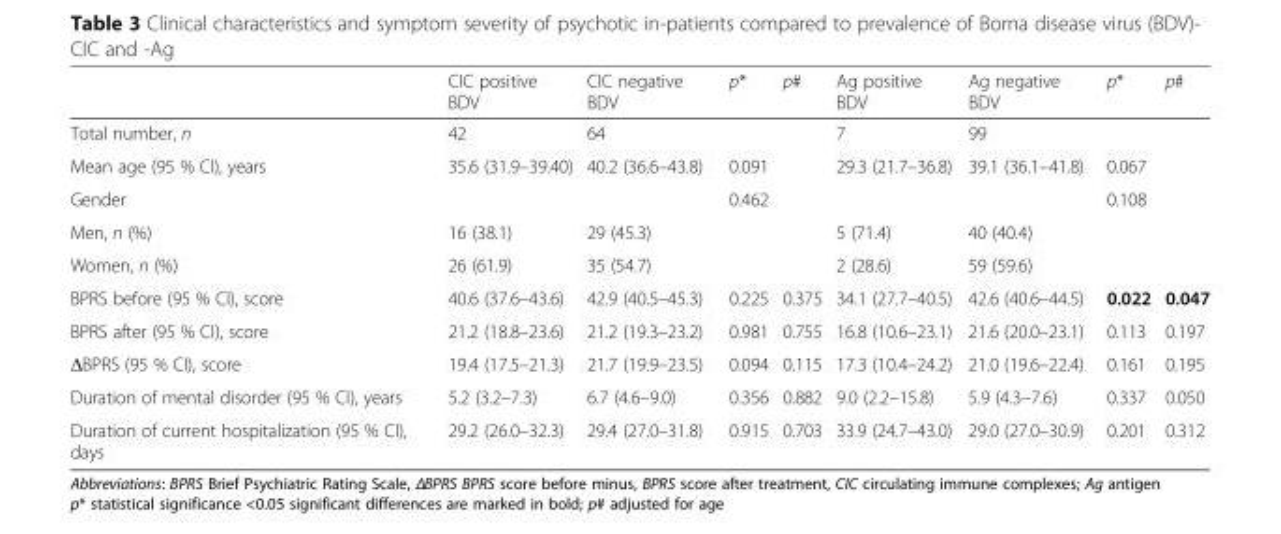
<table><thead><tr><td></td><td>CIC positive BDV</td><td>CIC negative BDV</td><td>p*</td><td>p#</td><td>Ag positive BDV</td><td>Ag negative BDV</td><td>p*</td><td>p#</td></tr></thead><tbody><tr><td>Total number, n</td><td>42</td><td>64</td><td></td><td></td><td>7</td><td>99</td><td></td><td></td></tr><tr><td>Mean age (95 % CI), years</td><td>35.6 (31.9–39.40)</td><td>40.2 (36.6–43.8)</td><td>0.091</td><td></td><td>29.3 (21.7–36.8)</td><td>39.1 (36.1–41.8)</td><td>0.067</td><td></td></tr><tr><td>Gender</td><td></td><td></td><td>0.462</td><td></td><td></td><td></td><td>0.108</td><td></td></tr><tr><td>Men, n (%)</td><td>16 (38.1)</td><td>29 (45.3)</td><td></td><td></td><td>5 (71.4)</td><td>40 (40.4)</td><td></td><td></td></tr><tr><td>Women, n (%)</td><td>26 (61.9)</td><td>35 (54.7)</td><td></td><td></td><td>2 (28.6)</td><td>59 (59.6)</td><td></td><td></td></tr><tr><td>BPRS before (95 % CI), score</td><td>40.6 (37.6–43.6)</td><td>42.9 (40.5–45.3)</td><td>0.225</td><td>0.375</td><td>34.1 (27.7–40.5)</td><td>42.6 (40.6–44.5)</td><td>0.022</td><td>0.047</td></tr><tr><td>BPRS after (95 % CI), score</td><td>21.2 (18.8–23.6)</td><td>21.2 (19.3–23.2)</td><td>0.981</td><td>0.755</td><td>16.8 (10.6–23.1)</td><td>21.6 (20.0–23.1)</td><td>0.113</td><td>0.197</td></tr><tr><td>ΔBPRS (95 % CI), score</td><td>19.4 (17.5–21.3)</td><td>21.7 (19.9–23.5)</td><td>0.094</td><td>0.115</td><td>17.3 (10.4–24.2)</td><td>21.0 (19.6–22.4)</td><td>0.161</td><td>0.195</td></tr><tr><td>Duration of mental disorder (95 % CI), years</td><td>5.2 (3.2–7.3)</td><td>6.7 (4.6–9.0)</td><td>0.356</td><td>0.882</td><td>9.0 (2.2–15.8)</td><td>5.9 (4.3–7.6)</td><td>0.337</td><td>0.050</td></tr><tr><td>Duration of current hospitalization (95 % CI), days</td><td>29.2 (26.0–32.3)</td><td>29.4 (27.0–31.8)</td><td>0.915</td><td>0.703</td><td>33.9 (24.7–43.0)</td><td>29.0 (27.0–30.9)</td><td>0.201</td><td>0.312</td></tr></tbody></table>